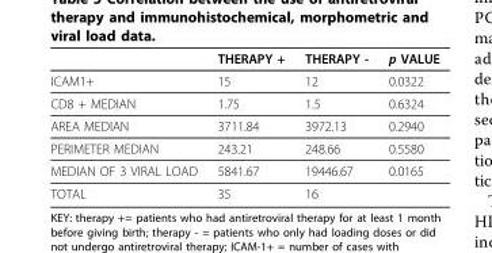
<table><thead><tr><td></td><td>THERAPY +</td><td>THERAPY -</td><td>p VALUE</td></tr></thead><tbody><tr><td>ICAM1+</td><td>15</td><td>12</td><td>0.0322</td></tr><tr><td>CD8 + MEDIAN</td><td>1.75</td><td>1.5</td><td>0.6324</td></tr><tr><td>AREA MEDIAN</td><td>3711.84</td><td>3972.13</td><td>0.2940</td></tr><tr><td>PERIMETER MEDIAN</td><td>243.21</td><td>248.66</td><td>0.5580</td></tr><tr><td>MEDIAN OF 3 VIRAL LOAD</td><td>5841.67</td><td>19446.67</td><td>0.0165</td></tr><tr><td>TOTAL</td><td>35</td><td>16</td><td></td></tr></tbody></table>